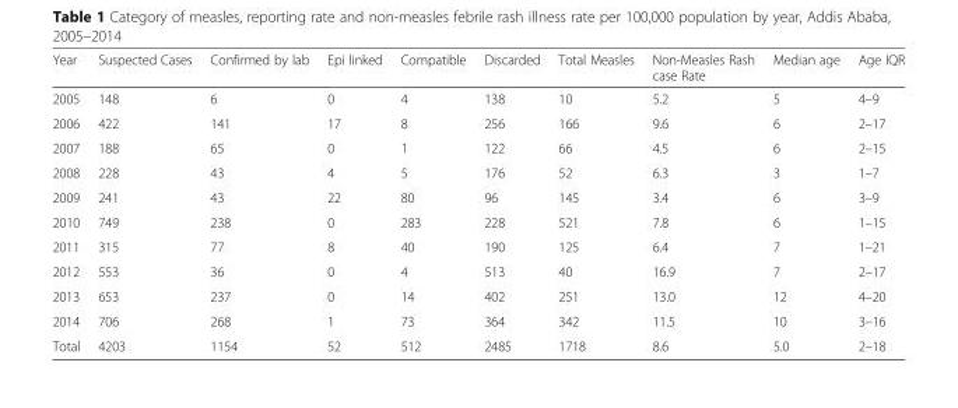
<table><thead><tr><td>Year</td><td>Suspected Cases</td><td>Confirmed by lab</td><td>Epi linked</td><td>Compatible</td><td>Discarded</td><td>Total Measles</td><td>Non-Measles Rash case Rate</td><td>Median age</td><td>Age IQR</td></tr></thead><tbody><tr><td>2005</td><td>148</td><td>6</td><td>0</td><td>4</td><td>138</td><td>10</td><td>5.2</td><td>5</td><td>4–9</td></tr><tr><td>2006</td><td>422</td><td>141</td><td>17</td><td>8</td><td>256</td><td>166</td><td>9.6</td><td>6</td><td>2–17</td></tr><tr><td>2007</td><td>188</td><td>65</td><td>0</td><td>1</td><td>122</td><td>66</td><td>4.5</td><td>6</td><td>2–15</td></tr><tr><td>2008</td><td>228</td><td>43</td><td>4</td><td>5</td><td>176</td><td>52</td><td>6.3</td><td>3</td><td>1–7</td></tr><tr><td>2009</td><td>241</td><td>43</td><td>22</td><td>80</td><td>96</td><td>145</td><td>3.4</td><td>6</td><td>3–9</td></tr><tr><td>2010</td><td>749</td><td>238</td><td>0</td><td>283</td><td>228</td><td>521</td><td>7.8</td><td>6</td><td>1–15</td></tr><tr><td>2011</td><td>315</td><td>77</td><td>8</td><td>40</td><td>190</td><td>125</td><td>6.4</td><td>7</td><td>1–21</td></tr><tr><td>2012</td><td>553</td><td>36</td><td>0</td><td>4</td><td>513</td><td>40</td><td>16.9</td><td>7</td><td>2–17</td></tr><tr><td>2013</td><td>653</td><td>237</td><td>0</td><td>14</td><td>402</td><td>251</td><td>13.0</td><td>12</td><td>4–20</td></tr><tr><td>2014</td><td>706</td><td>268</td><td>1</td><td>73</td><td>364</td><td>342</td><td>11.5</td><td>10</td><td>3–16</td></tr><tr><td>Total</td><td>4203</td><td>1154</td><td>52</td><td>512</td><td>2485</td><td>1718</td><td>8.6</td><td>5.0</td><td>2–18</td></tr></tbody></table>